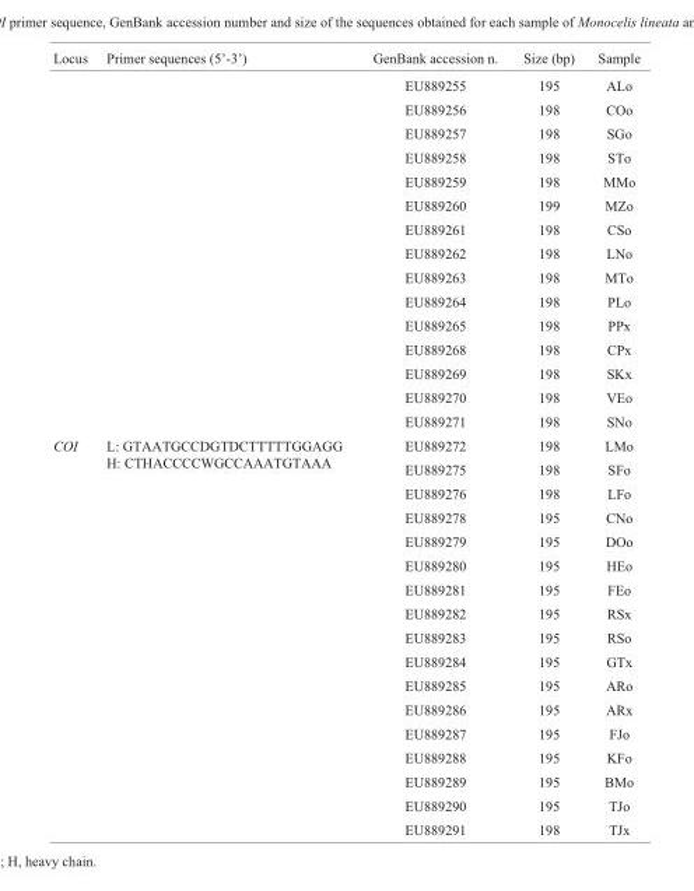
<table><thead><tr><td>Locus</td><td>Primer sequences (5’-3’)</td><td>GenBank accession n.</td><td>Size (bp)</td><td>Sample</td></tr></thead><tbody><tr><td></td><td></td><td>EU889255</td><td>195</td><td>ALo</td></tr><tr><td></td><td></td><td>EU889256</td><td>198</td><td>COo</td></tr><tr><td></td><td></td><td>EU889257</td><td>198</td><td>SGo</td></tr><tr><td></td><td></td><td>EU889258</td><td>198</td><td>STo</td></tr><tr><td></td><td></td><td>EU889259</td><td>198</td><td>MMo</td></tr><tr><td></td><td></td><td>EU889260</td><td>199</td><td>MZo</td></tr><tr><td></td><td></td><td>EU889261</td><td>198</td><td>CSo</td></tr><tr><td></td><td></td><td>EU889262</td><td>198</td><td>LNo</td></tr><tr><td></td><td></td><td>EU889263</td><td>198</td><td>MTo</td></tr><tr><td></td><td></td><td>EU889264</td><td>198</td><td>PLo</td></tr><tr><td></td><td></td><td>EU889265</td><td>198</td><td>PPx</td></tr><tr><td></td><td></td><td>EU889268</td><td>198</td><td>CPx</td></tr><tr><td></td><td></td><td>EU889269</td><td>198</td><td>SKx</td></tr><tr><td></td><td></td><td>EU889270</td><td>198</td><td>VEo</td></tr><tr><td></td><td></td><td>EU889271</td><td>198</td><td>SNo</td></tr><tr><td rowspan="17">COI</td><td rowspan="2">L: GTAATGCCDGTDCTTTTTGGAGG H: CTHACCCCWGCCAAATGTAAA</td><td>EU889272</td><td>198</td><td>LMo</td></tr><tr><td>EU889275</td><td>198</td><td>SFo</td></tr><tr><td></td><td>EU889276</td><td>198</td><td>LFo</td></tr><tr><td></td><td>EU889278</td><td>195</td><td>CNo</td></tr><tr><td></td><td>EU889279</td><td>195</td><td>DOo</td></tr><tr><td></td><td>EU889280</td><td>195</td><td>HEo</td></tr><tr><td></td><td>EU889281</td><td>195</td><td>FEo</td></tr><tr><td></td><td>EU889282</td><td>195</td><td>RSx</td></tr><tr><td></td><td>EU889283</td><td>195</td><td>RSo</td></tr><tr><td></td><td>EU889284</td><td>195</td><td>GTx</td></tr><tr><td></td><td>EU889285</td><td>195</td><td>ARo</td></tr><tr><td></td><td>EU889286</td><td>195</td><td>ARx</td></tr><tr><td></td><td>EU889287</td><td>195</td><td>FJo</td></tr><tr><td></td><td>EU889288</td><td>195</td><td>KFo</td></tr><tr><td></td><td>EU889289</td><td>195</td><td>BMo</td></tr><tr><td></td><td>EU889290</td><td>195</td><td>TJo</td></tr><tr><td></td><td>EU889291</td><td>198</td><td>TJx</td></tr></tbody></table>